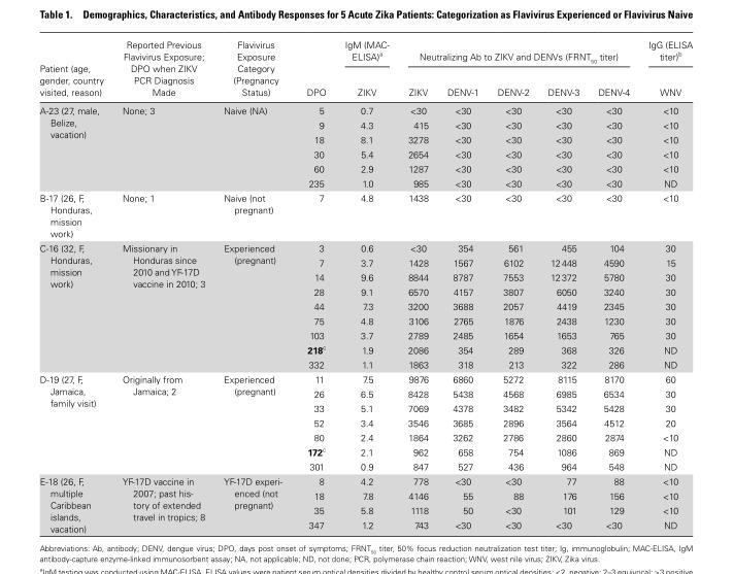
<table><thead><tr><td rowspan="2">Patient (age, gender, country visited, reason)</td><td rowspan="2">Reported Previous Flavivirus Exposure; DPO when ZIKV PCR Diagnosis Made</td><td rowspan="2">Flavivirus Exposure Category (Pregnancy Status)</td><td rowspan="2">DPO</td><td rowspan="2">IgM (MAC- ELISA)<sup>a</sup> ZIKV</td><td colspan="5">Neutralizing Ab to ZIKV and DENVs (FRNT<sub>50</sub> titer)</td><td rowspan="2">IgG (ELISA titer)<sup>b</sup> WNV</td></tr><tr><td>ZIKV</td><td>DENV-1</td><td>DENV-2</td><td>DENV-3</td><td>DENV-4</td></tr></thead><tbody><tr><td rowspan="6">A-23 (27, male, Belize, vacation)</td><td rowspan="6">None; 3</td><td rowspan="6">Naive (NA)</td><td>5</td><td>0.7</td><td>&lt;30</td><td>&lt;30</td><td>&lt;30</td><td>&lt;30</td><td>&lt;30</td><td>&lt;10</td></tr><tr><td>9</td><td>4.3</td><td>415</td><td>&lt;30</td><td>&lt;30</td><td>&lt;30</td><td>&lt;30</td><td>&lt;10</td></tr><tr><td>18</td><td>8.1</td><td>3278</td><td>&lt;30</td><td>&lt;30</td><td>&lt;30</td><td>&lt;30</td><td>&lt;10</td></tr><tr><td>30</td><td>5.4</td><td>2654</td><td>&lt;30</td><td>&lt;30</td><td>&lt;30</td><td>&lt;30</td><td>&lt;10</td></tr><tr><td>60</td><td>2.9</td><td>1287</td><td>&lt;30</td><td>&lt;30</td><td>&lt;30</td><td>&lt;30</td><td>&lt;10</td></tr><tr><td>235</td><td>1.0</td><td>985</td><td>&lt;30</td><td>&lt;30</td><td>&lt;30</td><td>&lt;30</td><td>ND</td></tr><tr><td>B-17 (26, F, Honduras, mission work)</td><td>None; 1</td><td>Naive (not pregnant)</td><td>7</td><td>4.8</td><td>1438</td><td>&lt;30</td><td>&lt;30</td><td>&lt;30</td><td>&lt;30</td><td>&lt;10</td></tr><tr><td rowspan="9">C-16 (32, F, Honduras, mission work)</td><td rowspan="9">Missionary in Honduras since 2010 and YF-17D vaccine in 2010; 3</td><td rowspan="9">Experienced (pregnant)</td><td>3</td><td>0.6</td><td>&lt;30</td><td>354</td><td>561</td><td>455</td><td>104</td><td>30</td></tr><tr><td>7</td><td>3.7</td><td>1428</td><td>1567</td><td>6102</td><td>12 448</td><td>4590</td><td>15</td></tr><tr><td>14</td><td>9.6</td><td>8844</td><td>8787</td><td>7553</td><td>12 372</td><td>5780</td><td>30</td></tr><tr><td>28</td><td>9.1</td><td>6570</td><td>4157</td><td>3807</td><td>6050</td><td>3240</td><td>30</td></tr><tr><td>44</td><td>7.3</td><td>3200</td><td>3688</td><td>2057</td><td>4419</td><td>2345</td><td>30</td></tr><tr><td>75</td><td>4.8</td><td>3106</td><td>2765</td><td>1876</td><td>2438</td><td>1230</td><td>30</td></tr><tr><td>103</td><td>3.7</td><td>2789</td><td>2485</td><td>1654</td><td>1653</td><td>765</td><td>30</td></tr><tr><td>218<sup>c</sup></td><td>1.9</td><td>2086</td><td>354</td><td>289</td><td>368</td><td>326</td><td>ND</td></tr><tr><td>332</td><td>1.1</td><td>1863</td><td>318</td><td>213</td><td>322</td><td>286</td><td>ND</td></tr><tr><td rowspan="7">D-19 (27, F, Jamaica, family visit)</td><td rowspan="7">Originally from Jamaica; 2</td><td rowspan="7">Experienced (pregnant)</td><td>11</td><td>7.5</td><td>9876</td><td>6860</td><td>5272</td><td>8115</td><td>8170</td><td>60</td></tr><tr><td>26</td><td>6.5</td><td>8428</td><td>5438</td><td>4568</td><td>6985</td><td>6534</td><td>30</td></tr><tr><td>33</td><td>5.1</td><td>7069</td><td>4378</td><td>3482</td><td>5342</td><td>5428</td><td>30</td></tr><tr><td>52</td><td>3.4</td><td>3546</td><td>3685</td><td>2896</td><td>3564</td><td>4512</td><td>20</td></tr><tr><td>80</td><td>2.4</td><td>1864</td><td>3262</td><td>2786</td><td>2860</td><td>2874</td><td>&lt;10</td></tr><tr><td>172<sup>c</sup></td><td>2.1</td><td>962</td><td>658</td><td>754</td><td>1086</td><td>869</td><td>ND</td></tr><tr><td>301</td><td>0.9</td><td>847</td><td>527</td><td>436</td><td>964</td><td>548</td><td>ND</td></tr><tr><td rowspan="4">E-18 (26, F, multiple Caribbean islands, vacation)</td><td rowspan="4">YF-17D vaccine in 2007; past his- tory of extended travel in tropics; 8</td><td rowspan="4">YF-17D experi- enced (not pregnant)</td><td>8</td><td>4.2</td><td>778</td><td>&lt;30</td><td>&lt;30</td><td>77</td><td>88</td><td>&lt;10</td></tr><tr><td>18</td><td>7.8</td><td>4146</td><td>55</td><td>88</td><td>176</td><td>156</td><td>&lt;10</td></tr><tr><td>35</td><td>5.8</td><td>1118</td><td>50</td><td>&lt;30</td><td>101</td><td>129</td><td>&lt;10</td></tr><tr><td>347</td><td>1.2</td><td>743</td><td>&lt;30</td><td>&lt;30</td><td>&lt;30</td><td>&lt;30</td><td>ND</td></tr></tbody></table>